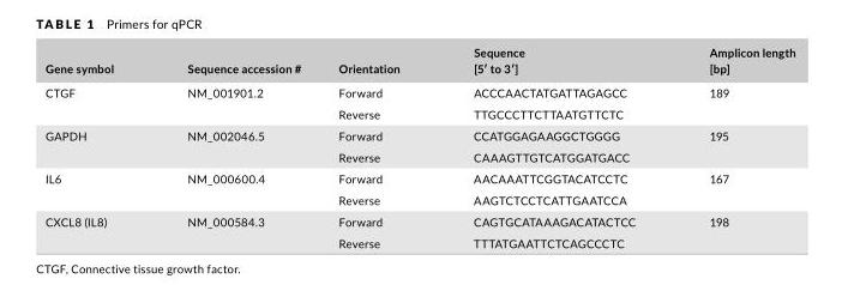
<table><thead><tr><td>Gene symbol</td><td>Sequence accession #</td><td>Orientation</td><td>Sequence [5′ to 3′]</td><td>Amplicon length [bp]</td></tr></thead><tbody><tr><td rowspan="2">CTGF</td><td rowspan="2">NM_001901.2</td><td>Forward</td><td>ACCCAACTATGATTAGAGCC</td><td rowspan="2">189</td></tr><tr><td>Reverse</td><td>TTGCCCTTCTTAATGTTCTC</td></tr><tr><td rowspan="2">GAPDH</td><td rowspan="2">NM_002046.5</td><td>Forward</td><td>CCATGGAGAAGGCTGGGG</td><td rowspan="2">195</td></tr><tr><td>Reverse</td><td>CAAAGTTGTCATGGATGACC</td></tr><tr><td rowspan="2">IL6</td><td rowspan="2">NM_000600.4</td><td>Forward</td><td>AACAAATTCGGTACATCCTC</td><td rowspan="2">167</td></tr><tr><td>Reverse</td><td>AAGTCTCCTCATTGAATCCA</td></tr><tr><td rowspan="2">CXCL8 (IL8)</td><td rowspan="2">NM_000584.3</td><td>Forward</td><td>CAGTGCATAAAGACATACTCC</td><td rowspan="2">198</td></tr><tr><td>Reverse</td><td>TTTATGAATTCTCAGCCCTC</td></tr></tbody></table>